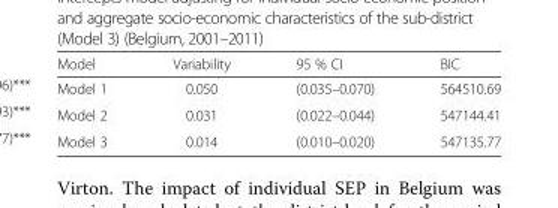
<table><thead><tr><td>Model</td><td>Variability</td><td>95 % CI</td><td>BIC</td></tr></thead><tbody><tr><td>Model 1</td><td>0.050</td><td>(0.035–0.070)</td><td>564510.69</td></tr><tr><td>Model 2</td><td>0.031</td><td>(0.022–0.044)</td><td>547144.41</td></tr><tr><td>Model 3</td><td>0.014</td><td>(0.010–0.020)</td><td>547135.77</td></tr></tbody></table>